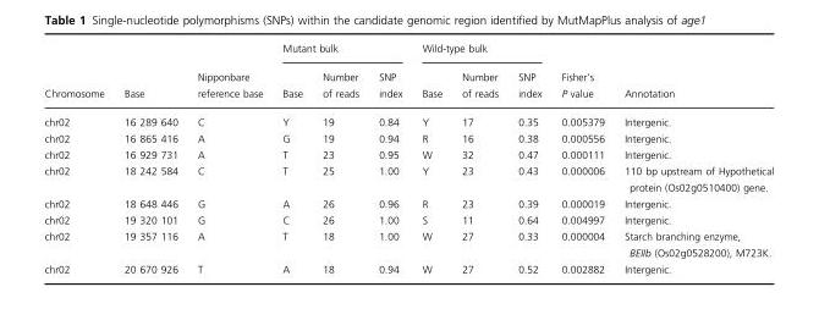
<table><thead><tr><td rowspan="2">Chromosome</td><td rowspan="2">Base</td><td rowspan="2">Nipponbare reference base</td><td colspan="3">Mutant bulk</td><td colspan="3">Wild-type bulk</td><td rowspan="2">Fisher’s P value</td><td rowspan="2">Annotation</td></tr><tr><td>Base</td><td>Number of reads</td><td>SNP index</td><td>Base</td><td>Number of reads</td><td>SNP index</td></tr></thead><tbody><tr><td>chr02</td><td>16 289 640</td><td>C</td><td>Y</td><td>19</td><td>0.84</td><td>Y</td><td>17</td><td>0.35</td><td>0.005379</td><td>Intergenic.</td></tr><tr><td>chr02</td><td>16 865 416</td><td>A</td><td>G</td><td>19</td><td>0.94</td><td>R</td><td>16</td><td>0.38</td><td>0.000556</td><td>Intergenic.</td></tr><tr><td>chr02</td><td>16 929 731</td><td>A</td><td>T</td><td>23</td><td>0.95</td><td>W</td><td>32</td><td>0.47</td><td>0.000111</td><td>Intergenic.</td></tr><tr><td>chr02</td><td>18 242 584</td><td>C</td><td>T</td><td>25</td><td>1.00</td><td>Y</td><td>23</td><td>0.43</td><td>0.000006</td><td>110 bp upstream of Hypothetical protein (Os02g0510400) gene.</td></tr><tr><td>chr02</td><td>18 648 446</td><td>G</td><td>A</td><td>26</td><td>0.96</td><td>R</td><td>23</td><td>0.39</td><td>0.000019</td><td>Intergenic.</td></tr><tr><td>chr02</td><td>19 320 101</td><td>G</td><td>C</td><td>26</td><td>1.00</td><td>S</td><td>11</td><td>0.64</td><td>0.004997</td><td>Intergenic.</td></tr><tr><td>chr02</td><td>19 357 116</td><td>A</td><td>T</td><td>18</td><td>1.00</td><td>W</td><td>27</td><td>0.33</td><td>0.000004</td><td>Starch branching enzyme, BEIIb (Os02g0528200), M723K.</td></tr><tr><td>chr02</td><td>20 670 926</td><td>T</td><td>A</td><td>18</td><td>0.94</td><td>W</td><td>27</td><td>0.52</td><td>0.002882</td><td>Intergenic.</td></tr></tbody></table>